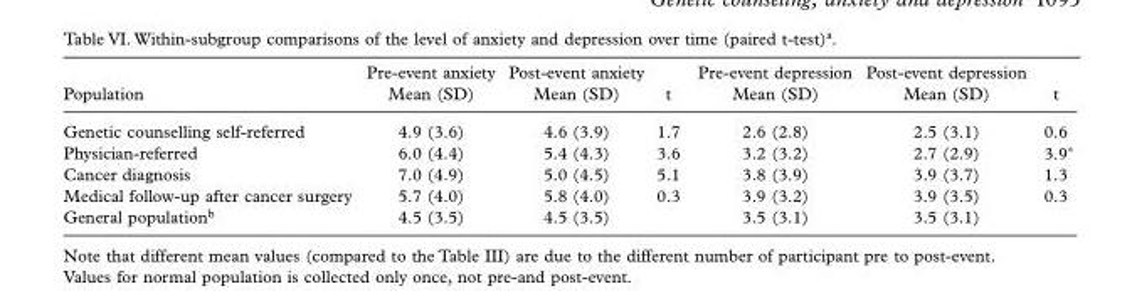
<table><thead><tr><td>Population</td><td>Pre-event anxiety Mean (SD)</td><td>Post-event anxiety Mean (SD)</td><td>t</td><td>Pre-event depression Mean (SD)</td><td>Post-event depression Mean (SD)</td><td>t</td></tr></thead><tbody><tr><td>Genetic counselling self-referred</td><td>4.9 (3.6)</td><td>4.6 (3.9)</td><td>1.7</td><td>2.6 (2.8)</td><td>2.5 (3.1)</td><td>0.6</td></tr><tr><td>Physician-referred</td><td>6.0 (4.4)</td><td>5.4 (4.3)</td><td>3.6</td><td>3.2 (3.2)</td><td>2.7 (2.9)</td><td>3.9</td></tr><tr><td>Cancer diagnosis</td><td>7.0 (4.9)</td><td>5.0 (4.5)</td><td>5.1</td><td>3.8 (3.9)</td><td>3.9 (3.7)</td><td>1.3</td></tr><tr><td>Medical follow-up after cancer surgery</td><td>5.7 (4.0)</td><td>5.8 (4.0)</td><td>0.3</td><td>3.9 (3.2)</td><td>3.9 (3.5)</td><td>0.3</td></tr><tr><td>General population <sup>b</sup></td><td>4.5 (3.5)</td><td>4.5 (3.5)</td><td></td><td>3.5 (3.1)</td><td>3.5 (3.1)</td><td></td></tr></tbody></table>